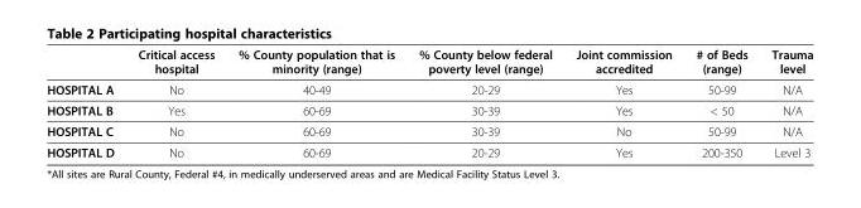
<table><thead><tr><td></td><td>Critical access hospital</td><td>% County population that is minority (range)</td><td>% County below federal poverty level (range)</td><td>Joint commission accredited</td><td># of Beds (range)</td><td>Trauma level</td></tr></thead><tbody><tr><td>HOSPITAL A</td><td>No</td><td>40-49</td><td>20-29</td><td>Yes</td><td>50-99</td><td>N/A</td></tr><tr><td>HOSPITAL B</td><td>Yes</td><td>60-69</td><td>30-39</td><td>Yes</td><td>&lt; 50</td><td>N/A</td></tr><tr><td>HOSPITAL C</td><td>No</td><td>60-69</td><td>30-39</td><td>No</td><td>50-99</td><td>N/A</td></tr><tr><td>HOSPITAL D</td><td>No</td><td>60-69</td><td>20-29</td><td>Yes</td><td>200-350</td><td>Level 3</td></tr></tbody></table>